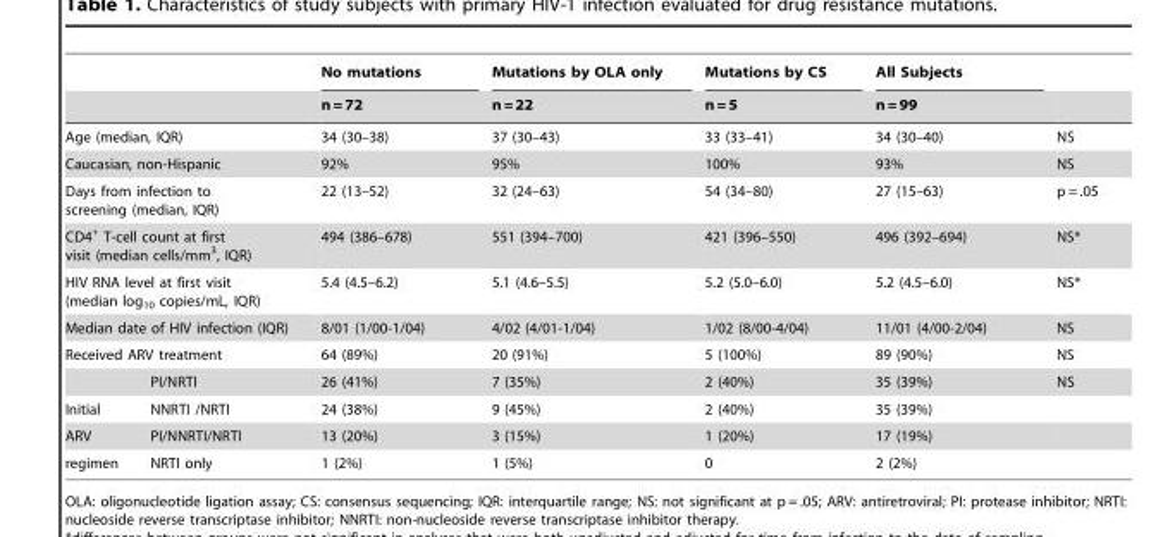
<table><thead><tr><td rowspan="2"></td><td rowspan="2"></td><td rowspan="2">No mutations n = 72</td><td rowspan="2">Mutations by OLA only n = 22</td><td rowspan="2">Mutations by CS n = 5</td><td rowspan="2">All Subjects n = 99</td><td rowspan="2"></td></tr><tr></tr></thead><tbody><tr><td colspan="2">Age (median, IQR)</td><td>34 (30–38)</td><td>37 (30–43)</td><td>33 (33–41)</td><td>34 (30–40)</td><td>NS</td></tr><tr><td colspan="2">Caucasian, non-Hispanic</td><td>92%</td><td>95%</td><td>100%</td><td>93%</td><td>NS</td></tr><tr><td colspan="2">Days from infection to screening (median, IQR)</td><td>22 (13–52)</td><td>32 (24–63)</td><td>54 (34–80)</td><td>27 (15–63)</td><td>p = .05</td></tr><tr><td colspan="2">CD4<sup>+</sup> T-cell count at first visit (median cells/mm<sup>3</sup>, IQR)</td><td>494 (386–678)</td><td>551 (394–700)</td><td>421 (396–550)</td><td>496 (392–694)</td><td>NS*</td></tr><tr><td colspan="2">HIV RNA level at first visit (median log<sub>10</sub> copies/mL, IQR)</td><td>5.4 (4.5–6.2)</td><td>5.1 (4.6–5.5)</td><td>5.2 (5.0–6.0)</td><td>5.2 (4.5–6.0)</td><td>NS*</td></tr><tr><td colspan="2">Median date of HIV infection (IQR)</td><td>8/01 (1/00-1/04)</td><td>4/02 (4/01-1/04)</td><td>1/02 (8/00-4/04)</td><td>11/01 (4/00-2/04)</td><td>NS</td></tr><tr><td colspan="2">Received ARV treatment</td><td>64 (89%)</td><td>20 (91%)</td><td>5 (100%)</td><td>89 (90%)</td><td>NS</td></tr><tr><td></td><td>PI/NRTI</td><td>26 (41%)</td><td>7 (35%)</td><td>2 (40%)</td><td>35 (39%)</td><td>NS</td></tr><tr><td>Initial</td><td>NNRTI /NRTI</td><td>24 (38%)</td><td>9 (45%)</td><td>2 (40%)</td><td>35 (39%)</td><td></td></tr><tr><td>ARV</td><td>PI/NNRTI/NRTI</td><td>13 (20%)</td><td>3 (15%)</td><td>1 (20%)</td><td>17 (19%)</td><td></td></tr><tr><td>regimen</td><td>NRTI only</td><td>1 (2%)</td><td>1 (5%)</td><td>0</td><td>2 (2%)</td><td></td></tr></tbody></table>